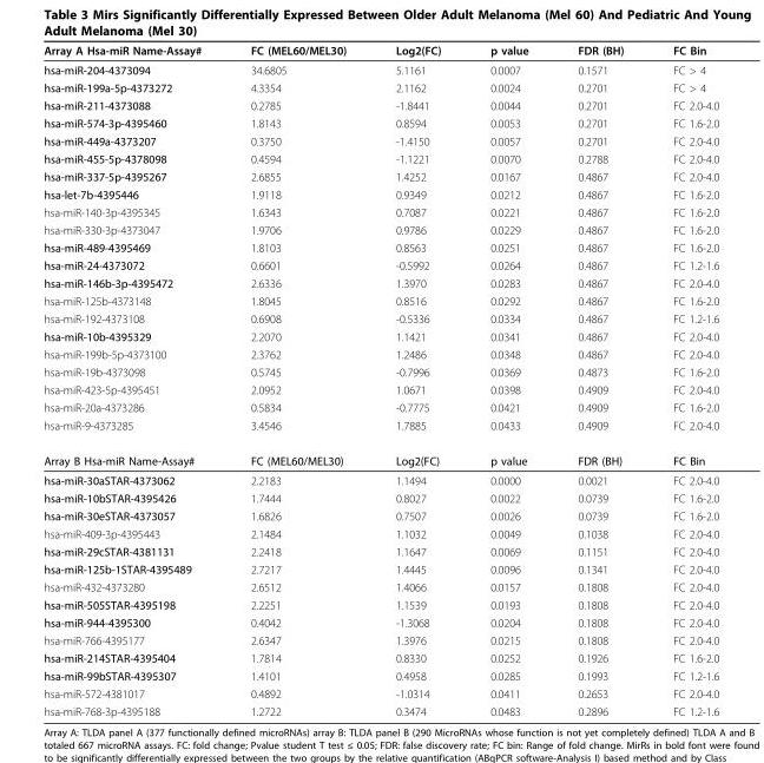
<table><thead><tr><td>Array A Hsa-miR Name-Assay#</td><td>FC (MEL60/MEL30)</td><td>Log2(FC)</td><td>p value</td><td>FDR (BH)</td><td>FC Bin</td></tr></thead><tbody><tr><td>hsa-miR-204-4373094</td><td>34.6805</td><td>5.1161</td><td>0.0007</td><td>0.1571</td><td>FC &gt; 4</td></tr><tr><td>hsa-miR-199a-5p-4373272</td><td>4.3354</td><td>2.1162</td><td>0.0024</td><td>0.2701</td><td>FC &gt; 4</td></tr><tr><td>hsa-miR-211-4373088</td><td>0.2785</td><td>-1.8441</td><td>0.0044</td><td>0.2701</td><td>FC 2.0-4.0</td></tr><tr><td>hsa-miR-574-3p-4395460</td><td>1.8143</td><td>0.8594</td><td>0.0053</td><td>0.2701</td><td>FC 1.6-2.0</td></tr><tr><td>hsa-miR-449a-4373207</td><td>0.3750</td><td>-1.4150</td><td>0.0057</td><td>0.2701</td><td>FC 2.0-4.0</td></tr><tr><td>hsa-miR-455-5p-4378098</td><td>0.4594</td><td>-1.1221</td><td>0.0070</td><td>0.2788</td><td>FC 2.0-4.0</td></tr><tr><td>hsa-miR-337-5p-4395267</td><td>2.6855</td><td>1.4252</td><td>0.0167</td><td>0.4867</td><td>FC 2.0-4.0</td></tr><tr><td>hsa-let-7b-4395446</td><td>1.9118</td><td>0.9349</td><td>0.0212</td><td>0.4867</td><td>FC 1.6-2.0</td></tr><tr><td>hsa-miR-140-3p-4395345</td><td>1.6343</td><td>0.7087</td><td>0.0221</td><td>0.4867</td><td>FC 1.6-2.0</td></tr><tr><td>hsa-miR-330-3p-4373047</td><td>1.9706</td><td>0.9786</td><td>0.0229</td><td>0.4867</td><td>FC 1.6-2.0</td></tr><tr><td>hsa-miR-489-4395469</td><td>1.8103</td><td>0.8563</td><td>0.0251</td><td>0.4867</td><td>FC 1.6-2.0</td></tr><tr><td>hsa-miR-24-4373072</td><td>0.6601</td><td>-0.5992</td><td>0.0264</td><td>0.4867</td><td>FC 1.2-1.6</td></tr><tr><td>hsa-miR-146b-3p-4395472</td><td>2.6336</td><td>1.3970</td><td>0.0283</td><td>0.4867</td><td>FC 2.0-4.0</td></tr><tr><td>hsa-miR-125b-4373148</td><td>1.8045</td><td>0.8516</td><td>0.0292</td><td>0.4867</td><td>FC 1.6-2.0</td></tr><tr><td>hsa-miR-192-4373108</td><td>0.6908</td><td>-0.5336</td><td>0.0334</td><td>0.4867</td><td>FC 1.2-1.6</td></tr><tr><td>hsa-miR-10b-4395329</td><td>2.2070</td><td>1.1421</td><td>0.0341</td><td>0.4867</td><td>FC 2.0-4.0</td></tr><tr><td>hsa-miR-199b-5p-4373100</td><td>2.3762</td><td>1.2486</td><td>0.0348</td><td>0.4867</td><td>FC 2.0-4.0</td></tr><tr><td>hsa-miR-19b-4373098</td><td>0.5745</td><td>-0.7996</td><td>0.0369</td><td>0.4873</td><td>FC 1.6-2.0</td></tr><tr><td>hsa-miR-423-5p-4395451</td><td>2.0952</td><td>1.0671</td><td>0.0398</td><td>0.4909</td><td>FC 2.0-4.0</td></tr><tr><td>hsa-miR-20a-4373286</td><td>0.5834</td><td>-0.7775</td><td>0.0421</td><td>0.4909</td><td>FC 1.6-2.0</td></tr><tr><td>hsa-miR-9-4373285</td><td>3.4546</td><td>1.7885</td><td>0.0433</td><td>0.4909</td><td>FC 2.0-4.0</td></tr><tr><td>Array B Hsa-miR Name-Assay#</td><td>FC (MEL60/MEL30)</td><td>Log2(FC)</td><td>p value</td><td>FDR (BH)</td><td>FC Bin</td></tr><tr><td>hsa-miR-30aSTAR-4373062</td><td>2.2183</td><td>1.1494</td><td>0.0000</td><td>0.0021</td><td>FC 2.0-4.0</td></tr><tr><td>hsa-miR-10bSTAR-4395426</td><td>1.7444</td><td>0.8027</td><td>0.0022</td><td>0.0739</td><td>FC 1.6-2.0</td></tr><tr><td>hsa-miR-30eSTAR-4373057</td><td>1.6826</td><td>0.7507</td><td>0.0026</td><td>0.0739</td><td>FC 1.6-2.0</td></tr><tr><td>hsa-miR-409-3p-4395443</td><td>2.1484</td><td>1.1032</td><td>0.0049</td><td>0.1038</td><td>FC 2.0-4.0</td></tr><tr><td>hsa-miR-29cSTAR-4381131</td><td>2.2418</td><td>1.1647</td><td>0.0069</td><td>0.1151</td><td>FC 2.0-4.0</td></tr><tr><td>hsa-miR-125b-1STAR-4395489</td><td>2.7217</td><td>1.4445</td><td>0.0096</td><td>0.1341</td><td>FC 2.0-4.0</td></tr><tr><td>hsa-miR-432-4373280</td><td>2.6512</td><td>1.4066</td><td>0.0157</td><td>0.1808</td><td>FC 2.0-4.0</td></tr><tr><td>hsa-miR-505STAR-4395198</td><td>2.2251</td><td>1.1539</td><td>0.0193</td><td>0.1808</td><td>FC 2.0-4.0</td></tr><tr><td>hsa-miR-944-4395300</td><td>0.4042</td><td>-1.3068</td><td>0.0204</td><td>0.1808</td><td>FC 2.0-4.0</td></tr><tr><td>hsa-miR-766-4395177</td><td>2.6347</td><td>1.3976</td><td>0.0215</td><td>0.1808</td><td>FC 2.0-4.0</td></tr><tr><td>hsa-miR-214STAR-4395404</td><td>1.7814</td><td>0.8330</td><td>0.0252</td><td>0.1926</td><td>FC 1.6-2.0</td></tr><tr><td>hsa-miR-99bSTAR-4395307</td><td>1.4101</td><td>0.4958</td><td>0.0285</td><td>0.1993</td><td>FC 1.2-1.6</td></tr><tr><td>hsa-miR-572-4381017</td><td>0.4892</td><td>-1.0314</td><td>0.0411</td><td>0.2653</td><td>FC 2.0-4.0</td></tr><tr><td>hsa-miR-768-3p-4395188</td><td>1.2722</td><td>0.3474</td><td>0.0483</td><td>0.2896</td><td>FC 1.2-1.6</td></tr></tbody></table>